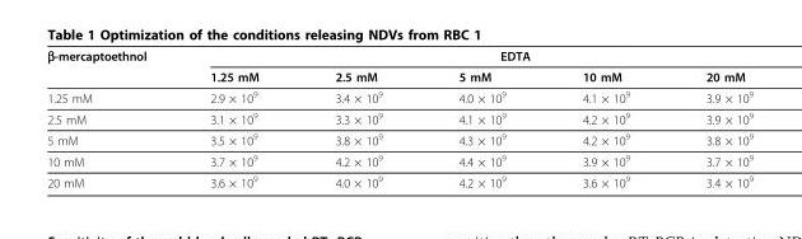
<table><thead><tr><td rowspan="2">β-mercaptoethnol</td><td colspan="5">EDTA</td></tr><tr><td>1.25 mM</td><td>2.5 mM</td><td>5 mM</td><td>10 mM</td><td>20 mM</td></tr></thead><tbody><tr><td>1.25 mM</td><td>2.9 × 10<sup>9</sup></td><td>3.4 × 10<sup>9</sup></td><td>4.0 × 10<sup>9</sup></td><td>4.1 × 10<sup>9</sup></td><td>3.9 × 10<sup>9</sup></td></tr><tr><td>2.5 mM</td><td>3.1 × 10<sup>9</sup></td><td>3.3 × 10<sup>9</sup></td><td>4.1 × 10<sup>9</sup></td><td>4.2 × 10<sup>9</sup></td><td>3.9 × 10<sup>9</sup></td></tr><tr><td>5 mM</td><td>3.5 × 10<sup>9</sup></td><td>3.8 × 10<sup>9</sup></td><td>4.3 × 10<sup>9</sup></td><td>4.2 × 10<sup>9</sup></td><td>3.8 × 10<sup>9</sup></td></tr><tr><td>10 mM</td><td>3.7 × 10<sup>9</sup></td><td>4.2 × 10<sup>9</sup></td><td>4.4 × 10<sup>9</sup></td><td>3.9 × 10<sup>9</sup></td><td>3.7 × 10<sup>9</sup></td></tr><tr><td>20 mM</td><td>3.6 × 10<sup>9</sup></td><td>4.0 × 10<sup>9</sup></td><td>4.2 × 10<sup>9</sup></td><td>3.6 × 10<sup>9</sup></td><td>3.4 × 10<sup>9</sup></td></tr></tbody></table>